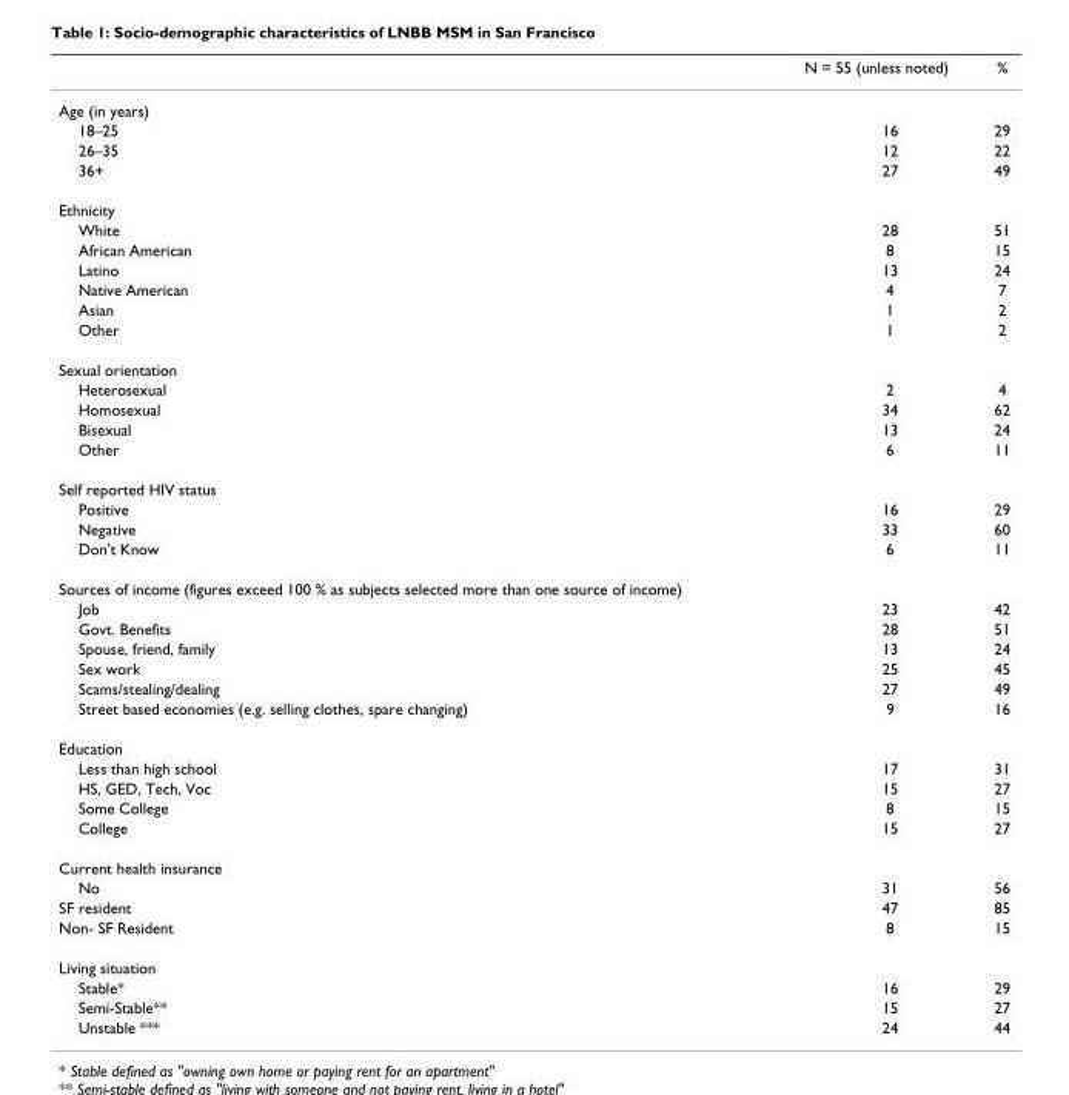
<table><thead><tr><td></td><td>N = 55 (unless noted)</td><td>%</td></tr></thead><tbody><tr><td colspan="3">Age (in years)</td></tr><tr><td>18–25</td><td>16</td><td>29</td></tr><tr><td>26–35</td><td>12</td><td>22</td></tr><tr><td>36+</td><td>27</td><td>49</td></tr><tr><td colspan="3">Ethnicity</td></tr><tr><td>White</td><td>28</td><td>51</td></tr><tr><td>African American</td><td>8</td><td>15</td></tr><tr><td>Latino</td><td>13</td><td>24</td></tr><tr><td>Native American</td><td>4</td><td>7</td></tr><tr><td>Asian</td><td>1</td><td>2</td></tr><tr><td>Other</td><td>1</td><td>2</td></tr><tr><td colspan="3">Sexual orientation</td></tr><tr><td>Heterosexual</td><td>2</td><td>4</td></tr><tr><td>Homosexual</td><td>34</td><td>62</td></tr><tr><td>Bisexual</td><td>13</td><td>24</td></tr><tr><td>Other</td><td>6</td><td>11</td></tr><tr><td colspan="3">Self reported HIV status</td></tr><tr><td>Positive</td><td>16</td><td>29</td></tr><tr><td>Negative</td><td>33</td><td>60</td></tr><tr><td>Don&#x27;t Know</td><td>6</td><td>11</td></tr><tr><td colspan="3">Sources of income (figures exceed 100 % as subjects selected more than one source of income)</td></tr><tr><td>Job</td><td>23</td><td>42</td></tr><tr><td>Govt. Benefits</td><td>28</td><td>51</td></tr><tr><td>Spouse, friend, family</td><td>13</td><td>24</td></tr><tr><td>Sex work</td><td>25</td><td>45</td></tr><tr><td>Scams/stealing/dealing</td><td>27</td><td>49</td></tr><tr><td>Street based economies (e.g. selling clothes, spare changing)</td><td>9</td><td>16</td></tr><tr><td colspan="3">Education</td></tr><tr><td>Less than high school</td><td>17</td><td>31</td></tr><tr><td>HS, GED, Tech, Voc</td><td>15</td><td>27</td></tr><tr><td>Some College</td><td>8</td><td>15</td></tr><tr><td>College</td><td>15</td><td>27</td></tr><tr><td colspan="3">Current health insurance</td></tr><tr><td>No</td><td>31</td><td>56</td></tr><tr><td>SF resident</td><td>47</td><td>85</td></tr><tr><td>Non- SF Resident</td><td>8</td><td>15</td></tr><tr><td colspan="3">Living situation</td></tr><tr><td>Stable*</td><td>16</td><td>29</td></tr><tr><td>Semi-Stable**</td><td>15</td><td>27</td></tr><tr><td>Unstable ***</td><td>24</td><td>44</td></tr></tbody></table>